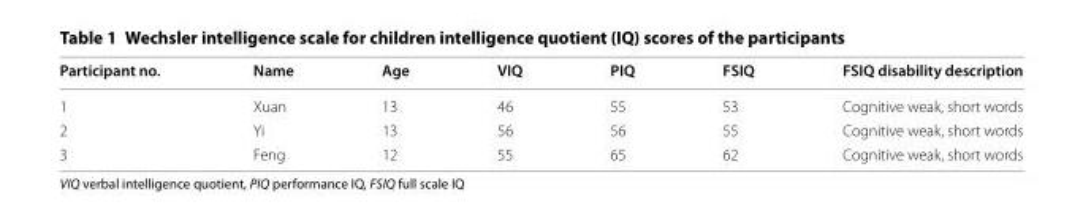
<table><thead><tr><td>Participant no.</td><td>Name</td><td>Age</td><td>VIQ</td><td>PIQ</td><td>FSIQ</td><td>FSIQ disability description</td></tr></thead><tbody><tr><td>1</td><td>Xuan</td><td>13</td><td>46</td><td>55</td><td>53</td><td>Cognitive weak, short words</td></tr><tr><td>2</td><td>Yi</td><td>13</td><td>56</td><td>56</td><td>55</td><td>Cognitive weak, short words</td></tr><tr><td>3</td><td>Feng</td><td>12</td><td>55</td><td>65</td><td>62</td><td>Cognitive weak, short words</td></tr></tbody></table>